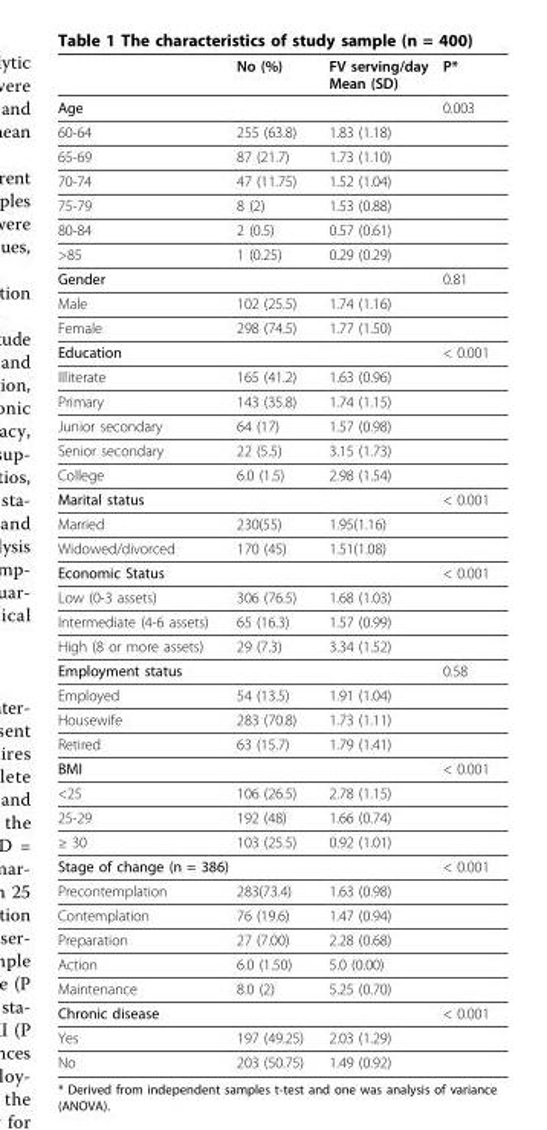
<table><thead><tr><td></td><td>No (%)</td><td>FV serving/day Mean (SD)</td><td>P*</td></tr></thead><tbody><tr><td>Age</td><td></td><td></td><td>0.003</td></tr><tr><td>60-64</td><td>255 (63.8)</td><td>1.83 (1.18)</td><td></td></tr><tr><td>65-69</td><td>87 (21.7)</td><td>1.73 (1.10)</td><td></td></tr><tr><td>70-74</td><td>47 (11.75)</td><td>1.52 (1.04)</td><td></td></tr><tr><td>75-79</td><td>8 (2)</td><td>1.53 (0.88)</td><td></td></tr><tr><td>80-84</td><td>2 (0.5)</td><td>0.57 (0.61)</td><td></td></tr><tr><td>&gt;85</td><td>1 (0.25)</td><td>0.29 (0.29)</td><td></td></tr><tr><td>Gender</td><td></td><td></td><td>0.81</td></tr><tr><td>Male</td><td>102 (25.5)</td><td>1.74 (1.16)</td><td></td></tr><tr><td>Female</td><td>298 (74.5)</td><td>1.77 (1.50)</td><td></td></tr><tr><td>Education</td><td></td><td></td><td>&lt; 0.001</td></tr><tr><td>Illiterate</td><td>165 (41.2)</td><td>1.63 (0.96)</td><td></td></tr><tr><td>Primary</td><td>143 (35.8)</td><td>1.74 (1.15)</td><td></td></tr><tr><td>Junior secondary</td><td>64 (17)</td><td>1.57 (0.98)</td><td></td></tr><tr><td>Senior secondary</td><td>22 (5.5)</td><td>3.15 (1.73)</td><td></td></tr><tr><td>College</td><td>6.0 (1.5)</td><td>2.98 (1.54)</td><td></td></tr><tr><td>Marital status</td><td></td><td></td><td>&lt; 0.001</td></tr><tr><td>Married</td><td>230(55)</td><td>1.95(1.16)</td><td></td></tr><tr><td>Widowed/divorced</td><td>170 (45)</td><td>1.51(1.08)</td><td></td></tr><tr><td>Economic Status</td><td></td><td></td><td>&lt; 0.001</td></tr><tr><td>Low (0-3 assets)</td><td>306 (76.5)</td><td>1.68 (1.03)</td><td></td></tr><tr><td>Intermediate (4-6 assets)</td><td>65 (16.3)</td><td>1.57 (0.99)</td><td></td></tr><tr><td>High (8 or more assets)</td><td>29 (7.3)</td><td>3.34 (1.52)</td><td></td></tr><tr><td>Employment status</td><td></td><td></td><td>0.58</td></tr><tr><td>Employed</td><td>54 (13.5)</td><td>1.91 (1.04)</td><td></td></tr><tr><td>Housewife</td><td>283 (70.8)</td><td>1.73 (1.11)</td><td></td></tr><tr><td>Retired</td><td>63 (15.7)</td><td>1.79 (1.41)</td><td></td></tr><tr><td>BMI</td><td></td><td></td><td>&lt; 0.001</td></tr><tr><td>&lt;25</td><td>106 (26.5)</td><td>2.78 (1.15)</td><td></td></tr><tr><td>25-29</td><td>192 (48)</td><td>1.66 (0.74)</td><td></td></tr><tr><td>≥ 30</td><td>103 (25.5)</td><td>0.92 (1.01)</td><td></td></tr><tr><td>Stage of change (n = 386)</td><td></td><td></td><td>&lt; 0.001</td></tr><tr><td>Precontemplation</td><td>283(73.4)</td><td>1.63 (0.98)</td><td></td></tr><tr><td>Contemplation</td><td>76 (19.6)</td><td>1.47 (0.94)</td><td></td></tr><tr><td>Preparation</td><td>27 (7.00)</td><td>2.28 (0.68)</td><td></td></tr><tr><td>Action</td><td>6.0 (1.50)</td><td>5.0 (0.00)</td><td></td></tr><tr><td>Maintenance</td><td>8.0 (2)</td><td>5.25 (0.70)</td><td></td></tr><tr><td>Chronic disease</td><td></td><td></td><td>&lt; 0.001</td></tr><tr><td>Yes</td><td>197 (49.25)</td><td>2.03 (1.29)</td><td></td></tr><tr><td>No</td><td>203 (50.75)</td><td>1.49 (0.92)</td><td></td></tr></tbody></table>